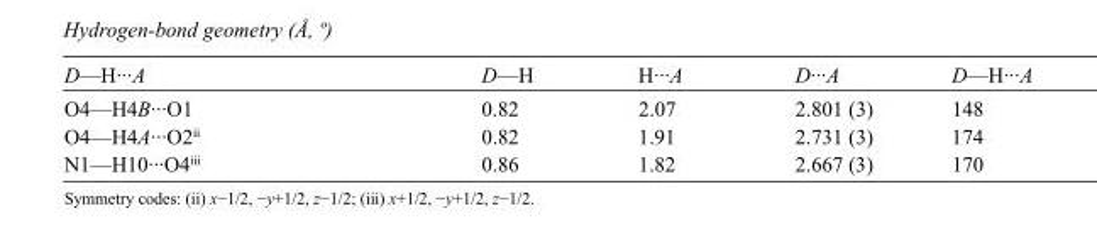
<table><tbody><tr><td>D—H···A</td><td>D—H</td><td>H···A</td><td>D···A</td><td>D—H···A</td></tr><tr><td>O4—H4B···O1</td><td>0.82</td><td>2.07</td><td>2.801 (3)</td><td>148</td></tr><tr><td>O4—H4A···O2<sup>ii</sup></td><td>0.82</td><td>1.91</td><td>2.731 (3)</td><td>174</td></tr><tr><td>N1—H10···O4<sup>iii</sup></td><td>0.86</td><td>1.82</td><td>2.667 (3)</td><td>170</td></tr></tbody></table>